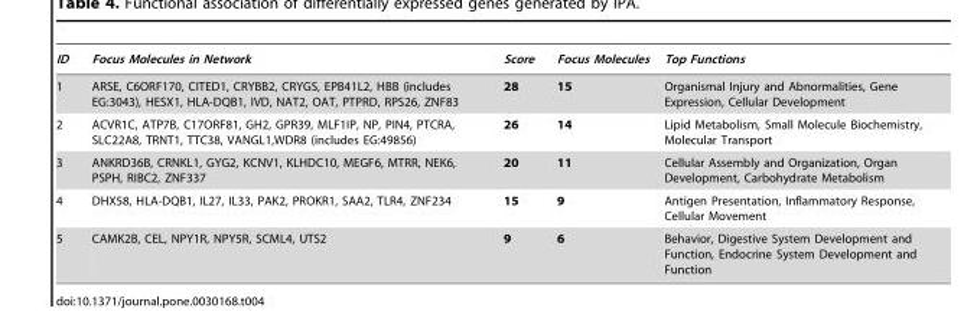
<table><thead><tr><td>ID</td><td>Focus Molecules in Network</td><td>Score</td><td>Focus Molecules</td><td>Top Functions</td></tr></thead><tbody><tr><td>1</td><td>ARSE, C6ORF170, CITED1, CRYBB2, CRYGS, EPB41L2, HBB (includes EG:3043), HESX1, HLA-DQB1, IVD, NAT2, OAT, PTPRD, RPS26, ZNF83</td><td>28</td><td>15</td><td>Organismal Injury and Abnormalities, Gene Expression, Cellular Development</td></tr><tr><td>2</td><td>ACVR1C, ATP7B, C17ORF81, GH2, GPR39, MLF1IP, NP, PIN4, PTCRA, SLC22A8, TRNT1, TTC38, VANGL1,WDR8 (includes EG:49856)</td><td>26</td><td>14</td><td>Lipid Metabolism, Small Molecule Biochemistry, Molecular Transport</td></tr><tr><td>3</td><td>ANKRD36B, CRNKL1, GYG2, KCNV1, KLHDC10, MEGF6, MTRR, NEK6, PSPH, RIBC2, ZNF337</td><td>20</td><td>11</td><td>Cellular Assembly and Organization, Organ Development, Carbohydrate Metabolism</td></tr><tr><td>4</td><td>DHX58, HLA-DQB1, IL27, IL33, PAK2, PROKR1, SAA2, TLR4, ZNF234</td><td>15</td><td>9</td><td>Antigen Presentation, Inflammatory Response, Cellular Movement</td></tr><tr><td>5</td><td>CAMK2B, CEL, NPY1R, NPY5R, SCML4, UTS2</td><td>9</td><td>6</td><td>Behavior, Digestive System Development and Function, Endocrine System Development and Function</td></tr></tbody></table>